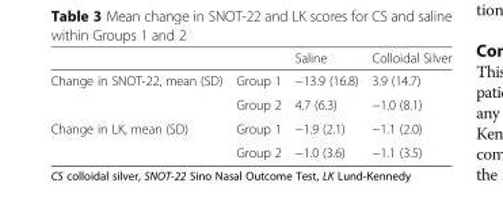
<table><thead><tr><td></td><td></td><td>Saline</td><td>Colloidal Silver</td></tr></thead><tbody><tr><td rowspan="2">Change in SNOT-22, mean (SD)</td><td>Group 1</td><td>−13.9 (16.8)</td><td>3.9 (14.7)</td></tr><tr><td>Group 2</td><td>4.7 (6.3)</td><td>−1.0 (8.1)</td></tr><tr><td rowspan="2">Change in LK, mean (SD)</td><td>Group 1</td><td>−1.9 (2.1)</td><td>−1.1 (2.0)</td></tr><tr><td>Group 2</td><td>−1.0 (3.6)</td><td>−1.1 (3.5)</td></tr></tbody></table>